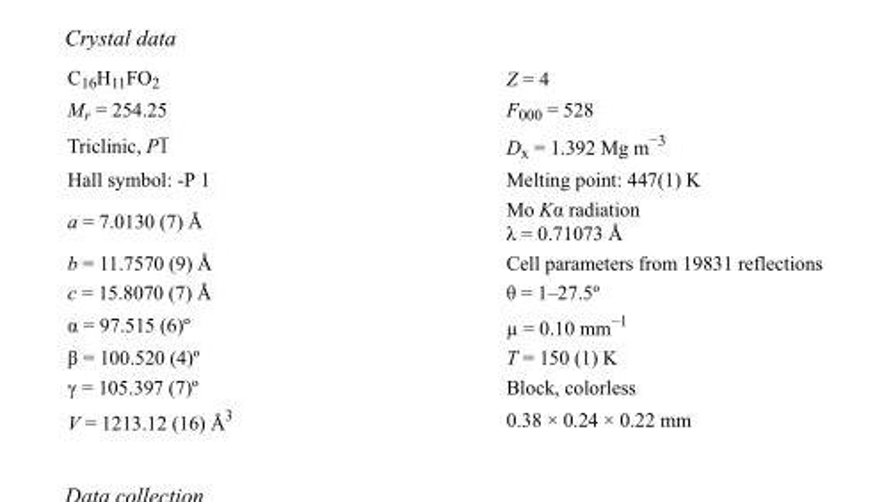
<table><tbody><tr><td>C<sub>16</sub>H<sub>11</sub>FO<sub>2</sub></td><td>Z = 4</td></tr><tr><td>M<sub>r</sub> = 254.25</td><td>F<sub>000</sub> = 528</td></tr><tr><td>Triclinic, P1</td><td>D<sub>x</sub> = 1.392 Mg m<sup>−3</sup></td></tr><tr><td>Hall symbol: -P 1</td><td>Melting point: 447(1) K</td></tr><tr><td>a = 7.0130 (7) Å</td><td>Mo Kα radiation λ = 0.71073 Å</td></tr><tr><td>b = 11.7570 (9) Å</td><td>Cell parameters from 19831 reflections</td></tr><tr><td>c = 15.8070 (7) Å</td><td>θ = 1–27.5º</td></tr><tr><td>α = 97.515 (6)º</td><td>µ = 0.10 mm<sup>−1</sup></td></tr><tr><td>β = 100.520 (4)º</td><td>T = 150 (1) K</td></tr><tr><td>γ = 105.397 (7)º</td><td>Block, colorless</td></tr><tr><td>V = 1213.12 (16) Å<sup>3</sup></td><td>0.38 × 0.24 × 0.22 mm</td></tr></tbody></table>